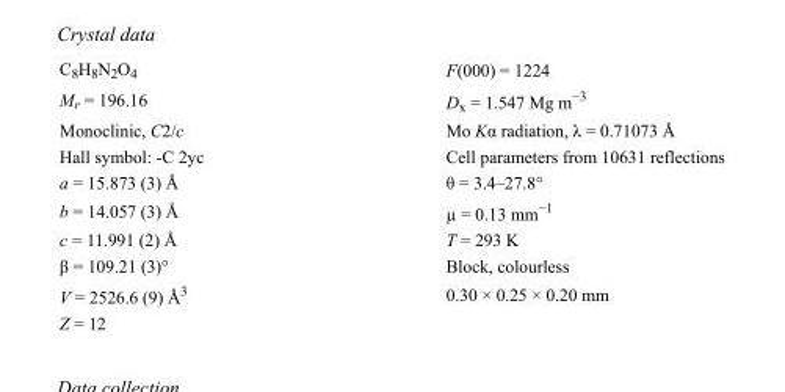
<table><tbody><tr><td>C<sub>8</sub>H<sub>8</sub>N<sub>2</sub>O<sub>4</sub></td><td>F(000) = 1224</td></tr><tr><td>M<sub>r</sub> = 196.16</td><td>D<sub>x</sub> = 1.547 Mg m<sup>−3</sup></td></tr><tr><td>Monoclinic, C2/c</td><td>Mo Kα radiation, λ = 0.71073 Å</td></tr><tr><td>Hall symbol: -C 2yc</td><td>Cell parameters from 10631 reflections</td></tr><tr><td>a = 15.873 (3) Å</td><td>θ = 3.4–27.8°</td></tr><tr><td>b = 14.057 (3) Å</td><td>µ = 0.13 mm<sup>−1</sup></td></tr><tr><td>c = 11.991 (2) Å</td><td>T = 293 K</td></tr><tr><td>β = 109.21 (3)°</td><td>Block, colourless</td></tr><tr><td>V = 2526.6 (9) Å<sup>3</sup></td><td>0.30 × 0.25 × 0.20 mm</td></tr><tr><td>Z = 12</td><td></td></tr></tbody></table>